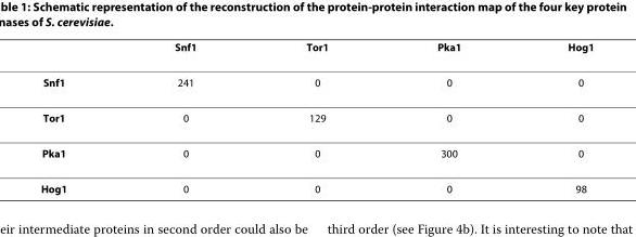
<table><thead><tr><td></td><td>Snf1</td><td>Tor1</td><td>Pka1</td><td>Hog1</td></tr></thead><tbody><tr><td>Snf1</td><td>241</td><td>0</td><td>0</td><td>0</td></tr><tr><td>Tor1</td><td>0</td><td>129</td><td>0</td><td>0</td></tr><tr><td>Pka1</td><td>0</td><td>0</td><td>300</td><td>0</td></tr><tr><td>Hog1</td><td>0</td><td>0</td><td>0</td><td>98</td></tr></tbody></table>